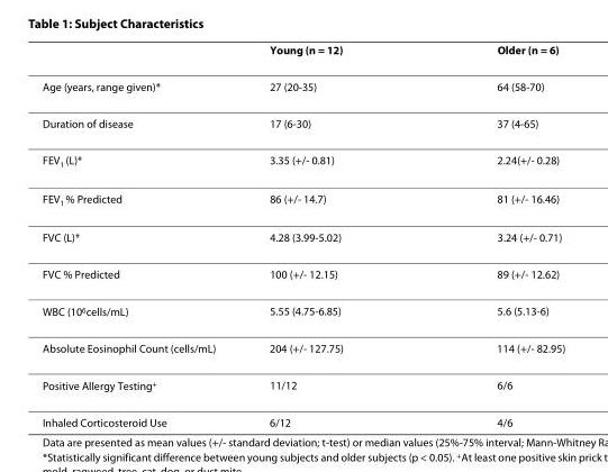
<table><thead><tr><td></td><td>Young (n = 12)</td><td>Older (n = 6)</td></tr></thead><tbody><tr><td>Age (years, range given)*</td><td>27 (20-35)</td><td>64 (58-70)</td></tr><tr><td>Duration of disease</td><td>17 (6-30)</td><td>37 (4-65)</td></tr><tr><td>FEV<sub>1</sub> (L)*</td><td>3.35 (+/- 0.81)</td><td>2.24(+/- 0.28)</td></tr><tr><td>FEV<sub>1</sub> % Predicted</td><td>86 (+/- 14.7)</td><td>81 (+/- 16.46)</td></tr><tr><td>FVC (L)*</td><td>4.28 (3.99-5.02)</td><td>3.24 (+/- 0.71)</td></tr><tr><td>FVC % Predicted</td><td>100 (+/- 12.15)</td><td>89 (+/- 12.62)</td></tr><tr><td>WBC (10<sup>6</sup>cells/mL)</td><td>5.55 (4.75-6.85)</td><td>5.6 (5.13-6)</td></tr><tr><td>Absolute Eosinophil Count (cells/mL)</td><td>204 (+/- 127.75)</td><td>114 (+/- 82.95)</td></tr><tr><td>Positive Allergy Testing<sup>+</sup></td><td>11/12</td><td>6/6</td></tr><tr><td>Inhaled Corticosteroid Use</td><td>6/12</td><td>4/6</td></tr></tbody></table>